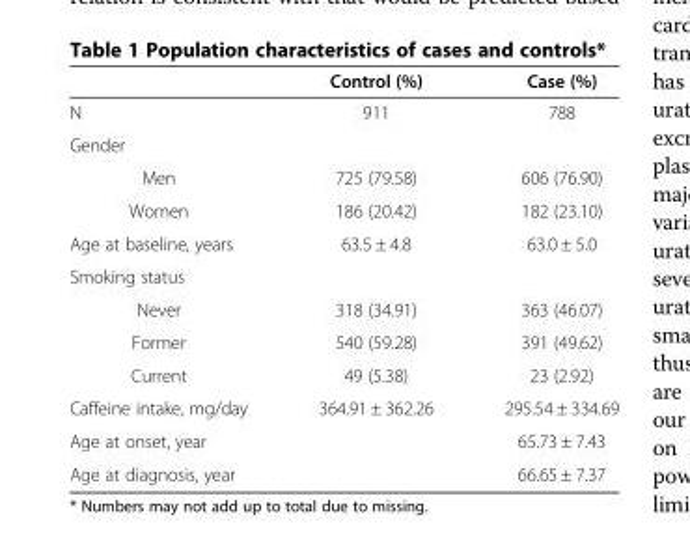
<table><thead><tr><td></td><td>Control (%)</td><td>Case (%)</td></tr></thead><tbody><tr><td>N</td><td>911</td><td>788</td></tr><tr><td colspan="3">Gender</td></tr><tr><td>Men</td><td>725 (79.58)</td><td>606 (76.90)</td></tr><tr><td>Women</td><td>186 (20.42)</td><td>182 (23.10)</td></tr><tr><td>Age at baseline, years</td><td>63.5 ± 4.8</td><td>63.0 ± 5.0</td></tr><tr><td colspan="3">Smoking status</td></tr><tr><td>Never</td><td>318 (34.91)</td><td>363 (46.07)</td></tr><tr><td>Former</td><td>540 (59.28)</td><td>391 (49.62)</td></tr><tr><td>Current</td><td>49 (5.38)</td><td>23 (2.92)</td></tr><tr><td>Caffeine intake, mg/day</td><td>364.91 ± 362.26</td><td>295.54 ± 334.69</td></tr><tr><td>Age at onset, year</td><td></td><td>65.73 ± 7.43</td></tr><tr><td>Age at diagnosis, year</td><td></td><td>66.65 ± 7.37</td></tr></tbody></table>